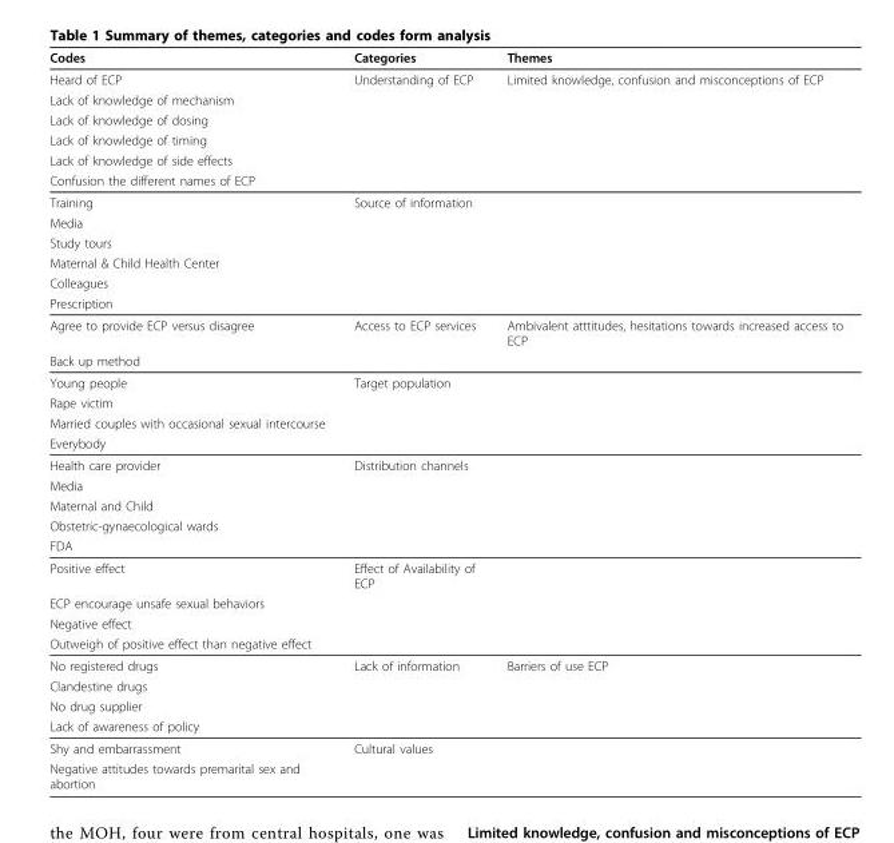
<table><thead><tr><td>Codes</td><td>Categories</td><td>Themes</td></tr></thead><tbody><tr><td>Heard of ECP</td><td>Understanding of ECP</td><td>Limited knowledge, confusion and misconceptions of ECP</td></tr><tr><td colspan="3">Lack of knowledge of mechanism</td></tr><tr><td colspan="3">Lack of knowledge of dosing</td></tr><tr><td colspan="3">Lack of knowledge of timing</td></tr><tr><td colspan="3">Lack of knowledge of side effects</td></tr><tr><td colspan="3">Confusion the different names of ECP</td></tr><tr><td>Training</td><td>Source of information</td><td></td></tr><tr><td colspan="3">Media</td></tr><tr><td colspan="3">Study tours</td></tr><tr><td colspan="3">Maternal &amp; Child Health Center</td></tr><tr><td colspan="3">Colleagues</td></tr><tr><td colspan="3">Prescription</td></tr><tr><td>Agree to provide ECP versus disagree</td><td>Access to ECP services</td><td>Ambivalent atttitudes, hesitations towards increased access to ECP</td></tr><tr><td colspan="3">Back up method</td></tr><tr><td>Young people</td><td>Target population</td><td></td></tr><tr><td colspan="3">Rape victim</td></tr><tr><td colspan="3">Married couples with occasional sexual intercourse</td></tr><tr><td colspan="3">Everybody</td></tr><tr><td>Health care provider</td><td>Distribution channels</td><td></td></tr><tr><td colspan="3">Media</td></tr><tr><td colspan="3">Maternal and Child</td></tr><tr><td colspan="3">Obstetric-gynaecological wards</td></tr><tr><td colspan="3">FDA</td></tr><tr><td>Positive effect</td><td>Effect of Availability of ECP</td><td></td></tr><tr><td colspan="3">ECP encourage unsafe sexual behaviors</td></tr><tr><td colspan="3">Negative effect</td></tr><tr><td colspan="3">Outweigh of positive effect than negative effect</td></tr><tr><td>No registered drugs</td><td>Lack of information</td><td>Barriers of use ECP</td></tr><tr><td colspan="3">Clandestine drugs</td></tr><tr><td colspan="3">No drug supplier</td></tr><tr><td colspan="3">Lack of awareness of policy</td></tr><tr><td>Shy and embarrassment</td><td>Cultural values</td><td></td></tr><tr><td>Negative attitudes towards premarital sex and abortion</td><td></td><td></td></tr></tbody></table>